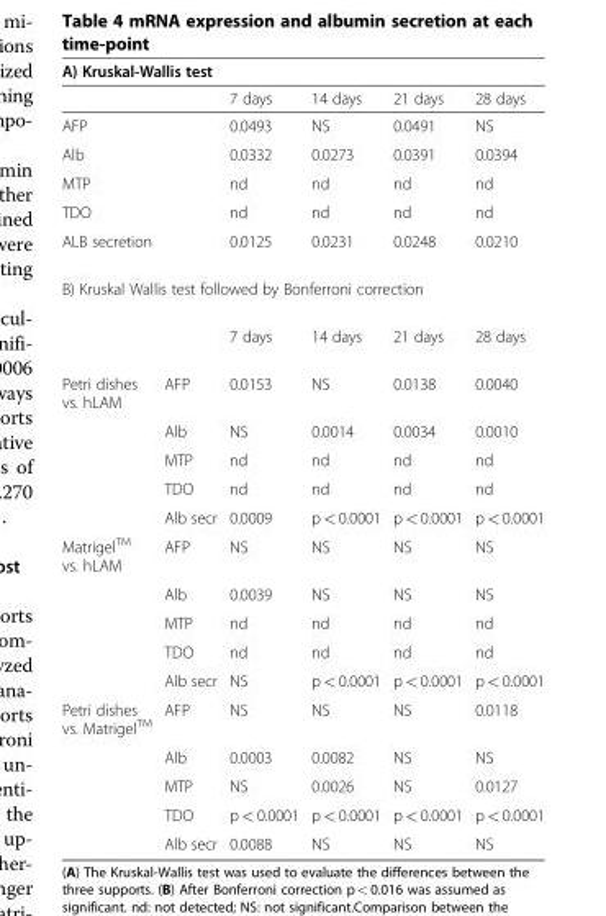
<table><thead><tr><td colspan="6">A) Kruskal-Wallis test</td></tr><tr><td></td><td></td><td>7 days</td><td>14 days</td><td>21 days</td><td>28 days</td></tr></thead><tbody><tr><td>AFP</td><td></td><td>0.0493</td><td>NS</td><td>0.0491</td><td>NS</td></tr><tr><td>Alb</td><td></td><td>0.0332</td><td>0.0273</td><td>0.0391</td><td>0.0394</td></tr><tr><td>MTP</td><td></td><td>nd</td><td>nd</td><td>nd</td><td>nd</td></tr><tr><td>TDO</td><td></td><td>nd</td><td>nd</td><td>nd</td><td>nd</td></tr><tr><td>ALB secretion</td><td></td><td>0.0125</td><td>0.0231</td><td>0.0248</td><td>0.0210</td></tr><tr><td colspan="6">B) Kruskal Wallis test followed by Bonferroni correction</td></tr><tr><td colspan="2"></td><td>7 days</td><td>14 days</td><td>21 days</td><td>28 days</td></tr><tr><td rowspan="5">Petri dishes vs. hLAM</td><td>AFP</td><td>0.0153</td><td>NS</td><td>0.0138</td><td>0.0040</td></tr><tr><td>Alb</td><td>NS</td><td>0.0014</td><td>0.0034</td><td>0.0010</td></tr><tr><td>MTP</td><td>nd</td><td>nd</td><td>nd</td><td>nd</td></tr><tr><td>TDO</td><td>nd</td><td>nd</td><td>nd</td><td>nd</td></tr><tr><td>Alb secr</td><td>0.0009</td><td>p &lt; 0.0001</td><td>p &lt; 0.0001</td><td>p &lt; 0.0001</td></tr><tr><td rowspan="5">Matrigel<sup>TM</sup> vs. hLAM</td><td>AFP</td><td>NS</td><td>NS</td><td>NS</td><td>NS</td></tr><tr><td>Alb</td><td>0.0039</td><td>NS</td><td>NS</td><td>NS</td></tr><tr><td>MTP</td><td>nd</td><td>nd</td><td>nd</td><td>nd</td></tr><tr><td>TDO</td><td>nd</td><td>nd</td><td>nd</td><td>nd</td></tr><tr><td>Alb secr</td><td>NS</td><td>p &lt; 0.0001</td><td>p &lt; 0.0001</td><td>p &lt; 0.0001</td></tr><tr><td rowspan="5">Petri dishes vs. Matrigel<sup>TM</sup></td><td>AFP</td><td>NS</td><td>NS</td><td>NS</td><td>0.0118</td></tr><tr><td>Alb</td><td>0.0003</td><td>0.0082</td><td>NS</td><td>NS</td></tr><tr><td>MTP</td><td>NS</td><td>0.0026</td><td>NS</td><td>0.0127</td></tr><tr><td>TDO</td><td>p &lt; 0.0001</td><td>p &lt; 0.0001</td><td>p &lt; 0.0001</td><td>p &lt; 0.0001</td></tr><tr><td>Alb secr</td><td>0.0088</td><td>NS</td><td>NS</td><td>NS</td></tr></tbody></table>